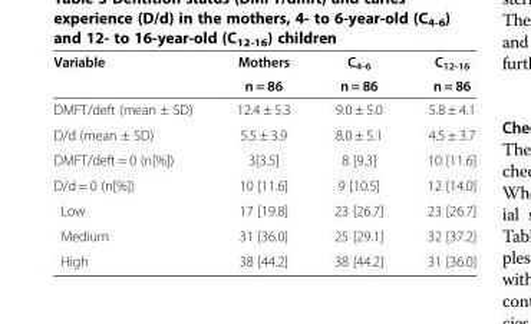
<table><thead><tr><td rowspan="2">Variable</td><td rowspan="2">Mothers n = 86</td><td rowspan="2">C<sub>4-6</sub> n = 86</td><td rowspan="2">C<sub>12-16</sub> n = 86</td></tr><tr></tr></thead><tbody><tr><td>DMFT/deft (mean ± SD)</td><td>12.4 ± 5.3</td><td>9.0 ± 5.0</td><td>5.8 ± 4.1</td></tr><tr><td>D/d (mean ± SD)</td><td>5.5 ± 3.9</td><td>8.0 ± 5.1</td><td>4.5 ± 3.7</td></tr><tr><td>DMFT/deft = 0 (n[%])</td><td>3[3.5]</td><td>8 [9.3]</td><td>10 [11.6]</td></tr><tr><td>D/d = 0 (n[%])</td><td>10 [11.6]</td><td>9 [10.5]</td><td>12 [14.0]</td></tr><tr><td>Low</td><td>17 [19.8]</td><td>23 [26.7]</td><td>23 [26.7]</td></tr><tr><td>Medium</td><td>31 [36.0]</td><td>25 [29.1]</td><td>32 [37.2]</td></tr><tr><td>High</td><td>38 [44.2]</td><td>38 [44.2]</td><td>31 [36.0]</td></tr></tbody></table>